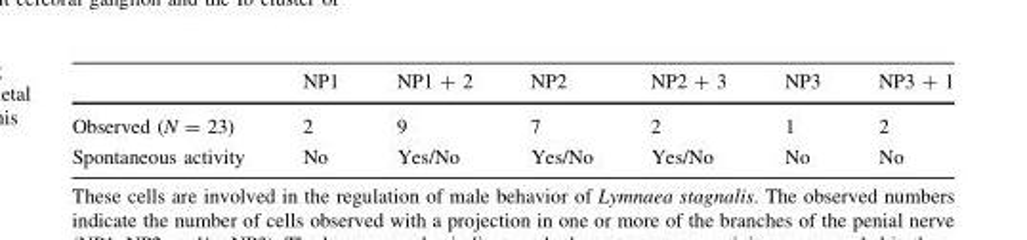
<table><thead><tr><td></td><td>NP1</td><td>NP1 + 2</td><td>NP2</td><td>NP2 + 3</td><td>NP3</td><td>NP3 + 1</td></tr></thead><tbody><tr><td>Observed (N = 23)</td><td>2</td><td>9</td><td>7</td><td>2</td><td>1</td><td>2</td></tr><tr><td>Spontaneous activity</td><td>No</td><td>Yes/No</td><td>Yes/No</td><td>Yes/No</td><td>No</td><td>No</td></tr></tbody></table>